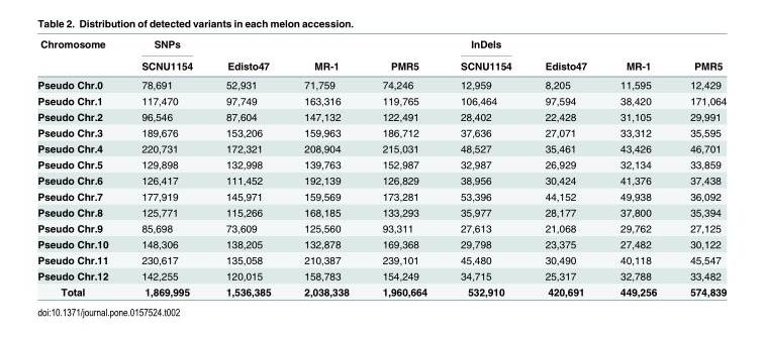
<table><thead><tr><td rowspan="2">Chromosome</td><td rowspan="2">SNPs SCNU1154</td><td rowspan="2">Edisto47</td><td rowspan="2">MR-1</td><td rowspan="2">PMR5</td><td rowspan="2">InDels SCNU1154</td><td rowspan="2">Edisto47</td><td rowspan="2">MR-1</td><td rowspan="2">PMR5</td></tr><tr></tr></thead><tbody><tr><td>Pseudo Chr.0</td><td>78,691</td><td>52,931</td><td>71,759</td><td>74,246</td><td>12,959</td><td>8,205</td><td>11,595</td><td>12,429</td></tr><tr><td>Pseudo Chr.1</td><td>117,470</td><td>97,749</td><td>163,316</td><td>119,765</td><td>106,464</td><td>97,594</td><td>38,420</td><td>171,064</td></tr><tr><td>Pseudo Chr.2</td><td>96,546</td><td>87,604</td><td>147,132</td><td>122,491</td><td>28,402</td><td>22,428</td><td>31,105</td><td>29,991</td></tr><tr><td>Pseudo Chr.3</td><td>189,676</td><td>153,206</td><td>159,963</td><td>186,712</td><td>37,636</td><td>27,071</td><td>33,312</td><td>35,595</td></tr><tr><td>Pseudo Chr.4</td><td>220,731</td><td>172,321</td><td>208,904</td><td>215,031</td><td>48,527</td><td>35,461</td><td>43,426</td><td>46,701</td></tr><tr><td>Pseudo Chr.5</td><td>129,898</td><td>132,998</td><td>139,763</td><td>152,987</td><td>32,987</td><td>26,929</td><td>32,134</td><td>33,859</td></tr><tr><td>Pseudo Chr.6</td><td>126,417</td><td>111,452</td><td>192,139</td><td>126,829</td><td>38,956</td><td>30,424</td><td>41,376</td><td>37,438</td></tr><tr><td>Pseudo Chr.7</td><td>177,919</td><td>145,971</td><td>159,569</td><td>173,281</td><td>53,396</td><td>44,152</td><td>49,938</td><td>36,092</td></tr><tr><td>Pseudo Chr.8</td><td>125,771</td><td>115,266</td><td>168,185</td><td>133,293</td><td>35,977</td><td>28,177</td><td>37,800</td><td>35,394</td></tr><tr><td>Pseudo Chr.9</td><td>85,698</td><td>73,609</td><td>125,560</td><td>93,311</td><td>27,613</td><td>21,068</td><td>29,762</td><td>27,125</td></tr><tr><td>Pseudo Chr.10</td><td>148,306</td><td>138,205</td><td>132,878</td><td>169,368</td><td>29,798</td><td>23,375</td><td>27,482</td><td>30,122</td></tr><tr><td>Pseudo Chr.11</td><td>230,617</td><td>135,058</td><td>210,387</td><td>239,101</td><td>45,480</td><td>30,490</td><td>40,118</td><td>45,547</td></tr><tr><td>Pseudo Chr.12</td><td>142,255</td><td>120,015</td><td>158,783</td><td>154,249</td><td>34,715</td><td>25,317</td><td>32,788</td><td>33,482</td></tr><tr><td>Total</td><td>1,869,995</td><td>1,536,385</td><td>2,038,338</td><td>1,960,664</td><td>532,910</td><td>420,691</td><td>449,256</td><td>574,839</td></tr></tbody></table>